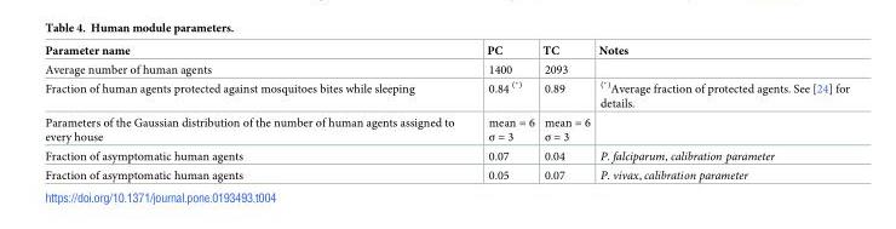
<table><thead><tr><td>Parameter name</td><td>PC</td><td>TC</td><td>Notes</td></tr></thead><tbody><tr><td>Average number of human agents</td><td>1400</td><td>2093</td><td></td></tr><tr><td>Fraction of human agents protected against mosquitoes bites while sleeping</td><td>0.84 <sup>(*)</sup></td><td>0.89</td><td><sup>(*)</sup>Average fraction of protected agents. See [24] for details.</td></tr><tr><td>Parameters of the Gaussian distribution of the number of human agents assigned to every house</td><td>mean = 6 σ = 3</td><td>mean = 6 σ = 3</td><td></td></tr><tr><td>Fraction of asymptomatic human agents</td><td>0.07</td><td>0.04</td><td>P. falciparum, calibration parameter</td></tr><tr><td>Fraction of asymptomatic human agents</td><td>0.05</td><td>0.07</td><td>P. vivax, calibration parameter</td></tr></tbody></table>